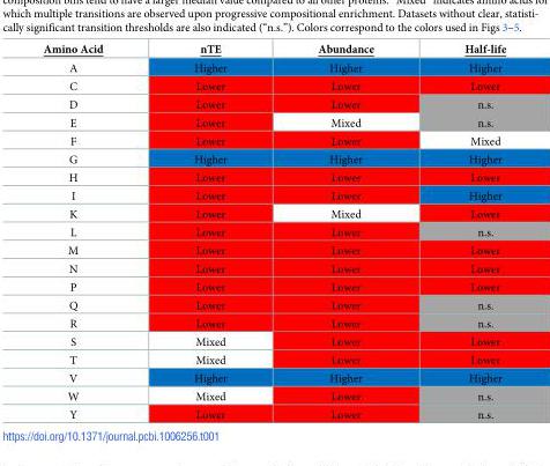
<table><thead><tr><td>Amino Acid</td><td>nTE</td><td>Abundance</td><td>Half-life</td></tr></thead><tbody><tr><td>A</td><td>Higher</td><td>Higher</td><td>Higher</td></tr><tr><td>C</td><td>Lower</td><td>Lower</td><td>Lower</td></tr><tr><td>D</td><td>Lower</td><td>Lower</td><td>n.s.</td></tr><tr><td>E</td><td>Lower</td><td>Mixed</td><td>n.s.</td></tr><tr><td>F</td><td>Lower</td><td>Lower</td><td>Mixed</td></tr><tr><td>G</td><td>Higher</td><td>Higher</td><td>Higher</td></tr><tr><td>H</td><td>Lower</td><td>Lower</td><td>Lower</td></tr><tr><td>I</td><td>Lower</td><td>Lower</td><td>Higher</td></tr><tr><td>K</td><td>Lower</td><td>Mixed</td><td>Lower</td></tr><tr><td>L</td><td>Lower</td><td>Lower</td><td>n.s.</td></tr><tr><td>M</td><td>Lower</td><td>Lower</td><td>Lower</td></tr><tr><td>N</td><td>Lower</td><td>Lower</td><td>Lower</td></tr><tr><td>P</td><td>Lower</td><td>Lower</td><td>Lower</td></tr><tr><td>Q</td><td>Lower</td><td>Lower</td><td>n.s.</td></tr><tr><td>R</td><td>Lower</td><td>Lower</td><td>n.s.</td></tr><tr><td>S</td><td>Mixed</td><td>Lower</td><td>Lower</td></tr><tr><td>T</td><td>Mixed</td><td>Lower</td><td>Lower</td></tr><tr><td>V</td><td>Higher</td><td>Higher</td><td>Higher</td></tr><tr><td>W</td><td>Mixed</td><td>Lower</td><td>n.s.</td></tr><tr><td>Y</td><td>Lower</td><td>Lower</td><td>n.s.</td></tr></tbody></table>